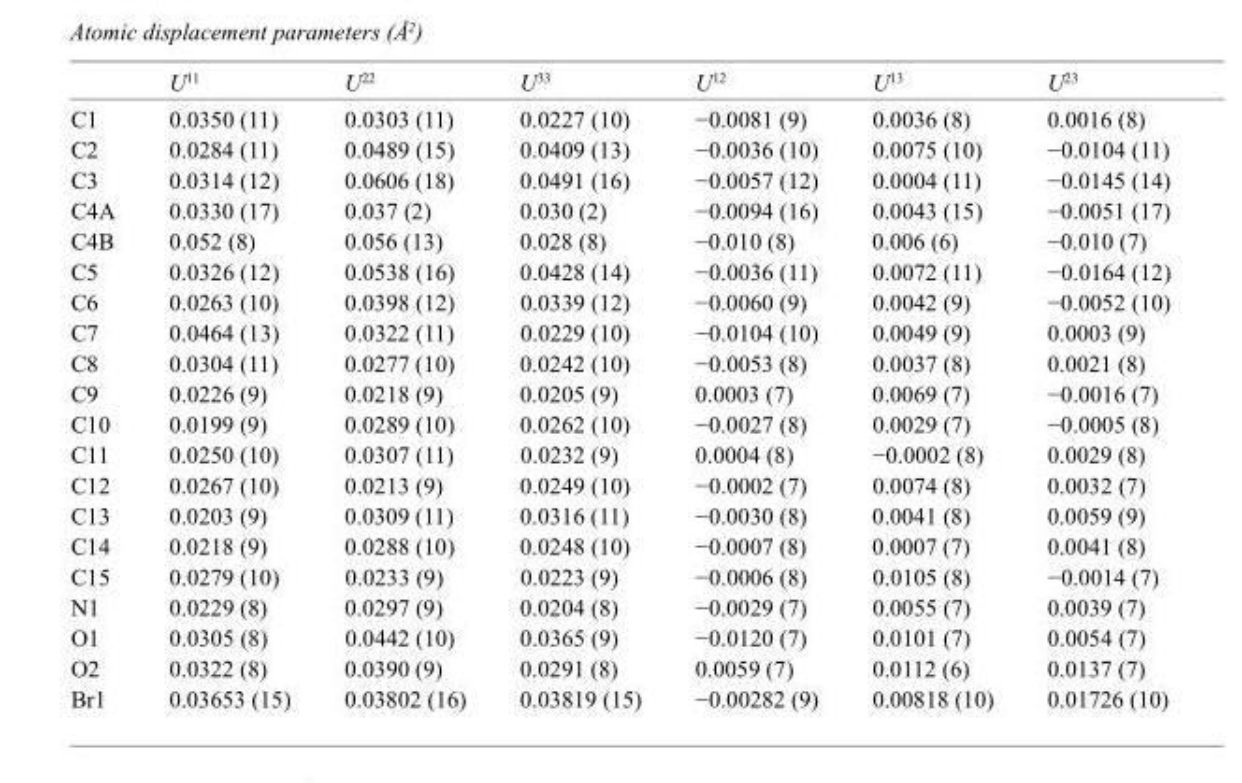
<table><thead><tr><td></td><td>U<sup>11</sup></td><td>U<sup>22</sup></td><td>U<sup>33</sup></td><td>U<sup>12</sup></td><td>U<sup>13</sup></td><td>U<sup>23</sup></td></tr></thead><tbody><tr><td>C1</td><td>0.0350 (11)</td><td>0.0303 (11)</td><td>0.0227 (10)</td><td>−0.0081 (9)</td><td>0.0036 (8)</td><td>0.0016 (8)</td></tr><tr><td>C2</td><td>0.0284 (11)</td><td>0.0489 (15)</td><td>0.0409 (13)</td><td>−0.0036 (10)</td><td>0.0075 (10)</td><td>−0.0104 (11)</td></tr><tr><td>C3</td><td>0.0314 (12)</td><td>0.0606 (18)</td><td>0.0491 (16)</td><td>−0.0057 (12)</td><td>0.0004 (11)</td><td>−0.0145 (14)</td></tr><tr><td>C4A</td><td>0.0330 (17)</td><td>0.037 (2)</td><td>0.030 (2)</td><td>−0.0094 (16)</td><td>0.0043 (15)</td><td>−0.0051 (17)</td></tr><tr><td>C4B</td><td>0.052 (8)</td><td>0.056 (13)</td><td>0.028 (8)</td><td>−0.010 (8)</td><td>0.006 (6)</td><td>−0.010 (7)</td></tr><tr><td>C5</td><td>0.0326 (12)</td><td>0.0538 (16)</td><td>0.0428 (14)</td><td>−0.0036 (11)</td><td>0.0072 (11)</td><td>−0.0164 (12)</td></tr><tr><td>C6</td><td>0.0263 (10)</td><td>0.0398 (12)</td><td>0.0339 (12)</td><td>−0.0060 (9)</td><td>0.0042 (9)</td><td>−0.0052 (10)</td></tr><tr><td>C7</td><td>0.0464 (13)</td><td>0.0322 (11)</td><td>0.0229 (10)</td><td>−0.0104 (10)</td><td>0.0049 (9)</td><td>0.0003 (9)</td></tr><tr><td>C8</td><td>0.0304 (11)</td><td>0.0277 (10)</td><td>0.0242 (10)</td><td>−0.0053 (8)</td><td>0.0037 (8)</td><td>0.0021 (8)</td></tr><tr><td>C9</td><td>0.0226 (9)</td><td>0.0218 (9)</td><td>0.0205 (9)</td><td>0.0003 (7)</td><td>0.0069 (7)</td><td>−0.0016 (7)</td></tr><tr><td>C10</td><td>0.0199 (9)</td><td>0.0289 (10)</td><td>0.0262 (10)</td><td>−0.0027 (8)</td><td>0.0029 (7)</td><td>−0.0005 (8)</td></tr><tr><td>C11</td><td>0.0250 (10)</td><td>0.0307 (11)</td><td>0.0232 (9)</td><td>0.0004 (8)</td><td>−0.0002 (8)</td><td>0.0029 (8)</td></tr><tr><td>C12</td><td>0.0267 (10)</td><td>0.0213 (9)</td><td>0.0249 (10)</td><td>−0.0002 (7)</td><td>0.0074 (8)</td><td>0.0032 (7)</td></tr><tr><td>C13</td><td>0.0203 (9)</td><td>0.0309 (11)</td><td>0.0316 (11)</td><td>−0.0030 (8)</td><td>0.0041 (8)</td><td>0.0059 (9)</td></tr><tr><td>C14</td><td>0.0218 (9)</td><td>0.0288 (10)</td><td>0.0248 (10)</td><td>−0.0007 (8)</td><td>0.0007 (7)</td><td>0.0041 (8)</td></tr><tr><td>C15</td><td>0.0279 (10)</td><td>0.0233 (9)</td><td>0.0223 (9)</td><td>−0.0006 (8)</td><td>0.0105 (8)</td><td>−0.0014 (7)</td></tr><tr><td>N1</td><td>0.0229 (8)</td><td>0.0297 (9)</td><td>0.0204 (8)</td><td>−0.0029 (7)</td><td>0.0055 (7)</td><td>0.0039 (7)</td></tr><tr><td>O1</td><td>0.0305 (8)</td><td>0.0442 (10)</td><td>0.0365 (9)</td><td>−0.0120 (7)</td><td>0.0101 (7)</td><td>0.0054 (7)</td></tr><tr><td>O2</td><td>0.0322 (8)</td><td>0.0390 (9)</td><td>0.0291 (8)</td><td>0.0059 (7)</td><td>0.0112 (6)</td><td>0.0137 (7)</td></tr><tr><td>Br1</td><td>0.03653 (15)</td><td>0.03802 (16)</td><td>0.03819 (15)</td><td>−0.00282 (9)</td><td>0.00818 (10)</td><td>0.01726 (10)</td></tr></tbody></table>